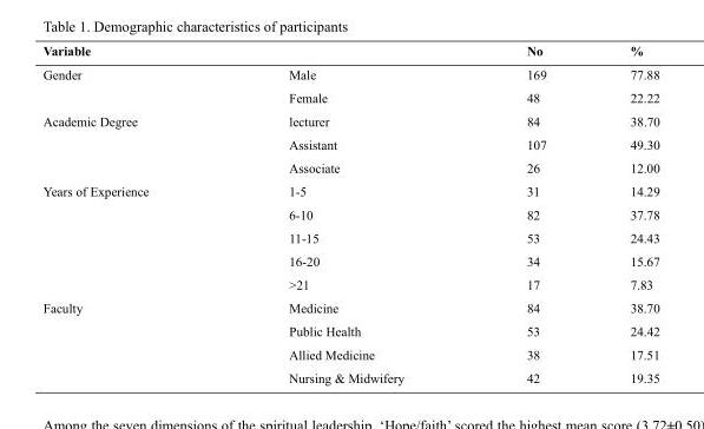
<table><thead><tr><td>Variable</td><td></td><td>No</td><td>%</td></tr></thead><tbody><tr><td rowspan="2">Gender</td><td>Male</td><td>169</td><td>77.88</td></tr><tr><td>Female</td><td>48</td><td>22.22</td></tr><tr><td rowspan="3">Academic Degree</td><td>lecturer</td><td>84</td><td>38.70</td></tr><tr><td>Assistant</td><td>107</td><td>49.30</td></tr><tr><td>Associate</td><td>26</td><td>12.00</td></tr><tr><td rowspan="5">Years of Experience</td><td>1-5</td><td>31</td><td>14.29</td></tr><tr><td>6-10</td><td>82</td><td>37.78</td></tr><tr><td>11-15</td><td>53</td><td>24.43</td></tr><tr><td>16-20</td><td>34</td><td>15.67</td></tr><tr><td>&gt;21</td><td>17</td><td>7.83</td></tr><tr><td rowspan="4">Faculty</td><td>Medicine</td><td>84</td><td>38.70</td></tr><tr><td>Public Health</td><td>53</td><td>24.42</td></tr><tr><td>Allied Medicine</td><td>38</td><td>17.51</td></tr><tr><td>Nursing &amp; Midwifery</td><td>42</td><td>19.35</td></tr></tbody></table>